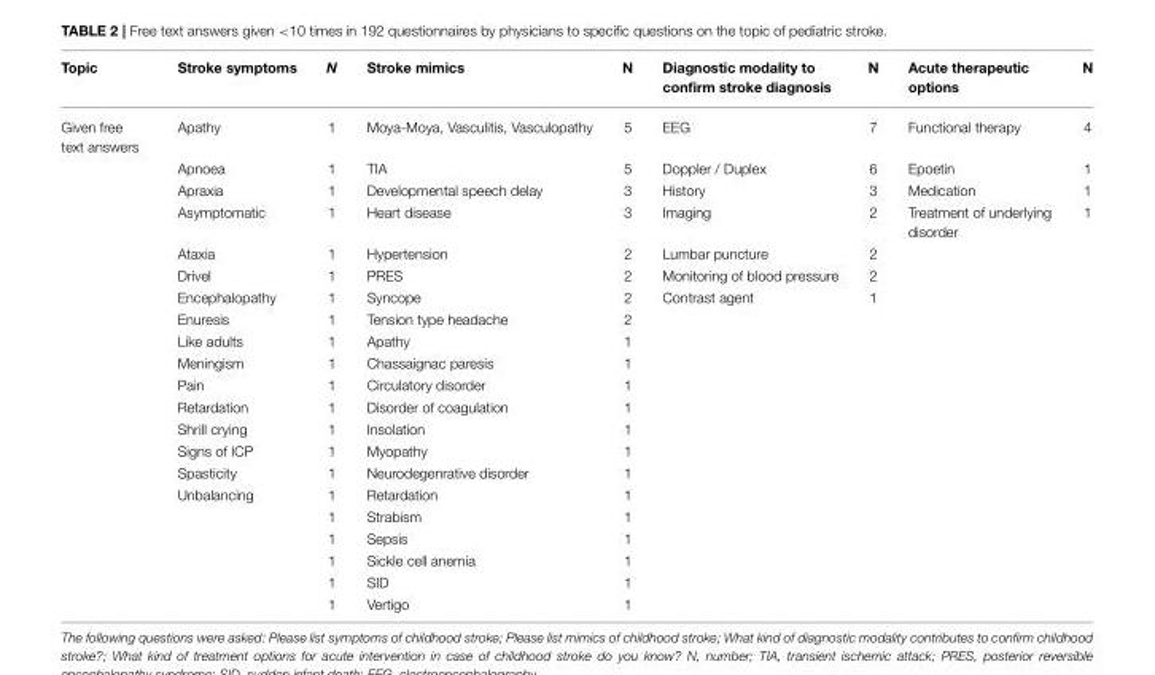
<table><thead><tr><td>Topic</td><td>Stroke symptoms</td><td>N</td><td>Stroke mimics</td><td>N</td><td>Diagnostic modality to confirm stroke diagnosis</td><td>N</td><td>Acute therapeutic options</td><td>N</td></tr></thead><tbody><tr><td rowspan="21">Given free text answers</td><td>Apathy</td><td>1</td><td>Moya-Moya, Vasculitis, Vasculopathy</td><td>5</td><td>EEG</td><td>7</td><td>Functional therapy</td><td>4</td></tr><tr><td>Apnoea</td><td>1</td><td>TIA</td><td>5</td><td>Doppler / Duplex</td><td>6</td><td>Epoetin</td><td>1</td></tr><tr><td>Apraxia</td><td>1</td><td>Developmental speech delay</td><td>3</td><td>History</td><td>3</td><td>Medication</td><td>1</td></tr><tr><td>Asymptomatic</td><td>1</td><td>Heart disease</td><td>3</td><td>Imaging</td><td>2</td><td>Treatment of underlying disorder</td><td>1</td></tr><tr><td>Ataxia</td><td>1</td><td>Hypertension</td><td>2</td><td>Lumbar puncture</td><td>2</td><td></td><td></td></tr><tr><td>Drivel</td><td>1</td><td>PRES</td><td>2</td><td>Monitoring of blood pressure</td><td>2</td><td></td><td></td></tr><tr><td>Encephalopathy</td><td>1</td><td>Syncope</td><td>2</td><td>Contrast agent</td><td>1</td><td></td><td></td></tr><tr><td>Enuresis</td><td>1</td><td>Tension type headache</td><td>2</td><td></td><td></td><td></td><td></td></tr><tr><td>Like adults</td><td>1</td><td>Apathy</td><td>1</td><td></td><td></td><td></td><td></td></tr><tr><td>Meningism</td><td>1</td><td>Chassaignac paresis</td><td>1</td><td></td><td></td><td></td><td></td></tr><tr><td>Pain</td><td>1</td><td>Circulatory disorder</td><td>1</td><td></td><td></td><td></td><td></td></tr><tr><td>Retardation</td><td>1</td><td>Disorder of coagulation</td><td>1</td><td></td><td></td><td></td><td></td></tr><tr><td>Shrill crying</td><td>1</td><td>Insolation</td><td>1</td><td></td><td></td><td></td><td></td></tr><tr><td>Signs of ICP</td><td>1</td><td>Myopathy</td><td>1</td><td></td><td></td><td></td><td></td></tr><tr><td>Spasticity</td><td>1</td><td>Neurodegenrative disorder</td><td>1</td><td></td><td></td><td></td><td></td></tr><tr><td>Unbalancing</td><td>1</td><td>Retardation</td><td>1</td><td></td><td></td><td></td><td></td></tr><tr><td></td><td>1</td><td>Strabism</td><td>1</td><td></td><td></td><td></td><td></td></tr><tr><td></td><td>1</td><td>Sepsis</td><td>1</td><td></td><td></td><td></td><td></td></tr><tr><td></td><td>1</td><td>Sickle cell anemia</td><td>1</td><td></td><td></td><td></td><td></td></tr><tr><td></td><td>1</td><td>SID</td><td>1</td><td></td><td></td><td></td><td></td></tr><tr><td></td><td>1</td><td>Vertigo</td><td>1</td><td></td><td></td><td></td><td></td></tr></tbody></table>